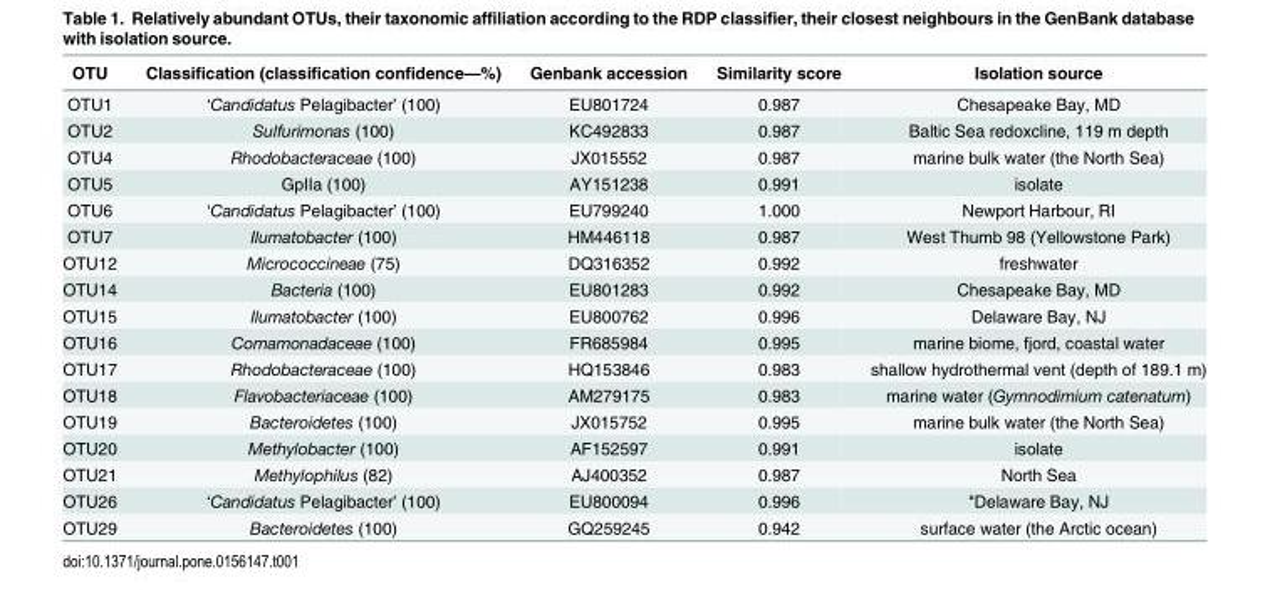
<table><thead><tr><td>OTU</td><td>Classification (classification confidence—%)</td><td>Genbank accession</td><td>Similarity score</td><td>Isolation source</td></tr></thead><tbody><tr><td>OTU1</td><td>‘Candidatus Pelagibacter’ (100)</td><td>EU801724</td><td>0.987</td><td>Chesapeake Bay, MD</td></tr><tr><td>OTU2</td><td>Sulfurimonas (100)</td><td>KC492833</td><td>0.987</td><td>Baltic Sea redoxcline, 119 m depth</td></tr><tr><td>OTU4</td><td>Rhodobacteraceae (100)</td><td>JX015552</td><td>0.987</td><td>marine bulk water (the North Sea)</td></tr><tr><td>OTU5</td><td>GpIIa (100)</td><td>AY151238</td><td>0.991</td><td>isolate</td></tr><tr><td>OTU6</td><td>‘Candidatus Pelagibacter’ (100)</td><td>EU799240</td><td>1.000</td><td>Newport Harbour, RI</td></tr><tr><td>OTU7</td><td>Ilumatobacter (100)</td><td>HM446118</td><td>0.987</td><td>West Thumb 98 (Yellowstone Park)</td></tr><tr><td>OTU12</td><td>Micrococcineae (75)</td><td>DQ316352</td><td>0.992</td><td>freshwater</td></tr><tr><td>OTU14</td><td>Bacteria (100)</td><td>EU801283</td><td>0.992</td><td>Chesapeake Bay, MD</td></tr><tr><td>OTU15</td><td>Ilumatobacter (100)</td><td>EU800762</td><td>0.996</td><td>Delaware Bay, NJ</td></tr><tr><td>OTU16</td><td>Comamonadaceae (100)</td><td>FR685984</td><td>0.995</td><td>marine biome, fjord, coastal water</td></tr><tr><td>OTU17</td><td>Rhodobacteraceae (100)</td><td>HQ153846</td><td>0.983</td><td>shallow hydrothermal vent (depth of 189.1 m)</td></tr><tr><td>OTU18</td><td>Flavobacteriaceae (100)</td><td>AM279175</td><td>0.983</td><td>marine water (Gymnodimium catenatum)</td></tr><tr><td>OTU19</td><td>Bacteroidetes (100)</td><td>JX015752</td><td>0.995</td><td>marine bulk water (the North Sea)</td></tr><tr><td>OTU20</td><td>Methylobacter (100)</td><td>AF152597</td><td>0.991</td><td>isolate</td></tr><tr><td>OTU21</td><td>Methylophilus (82)</td><td>AJ400352</td><td>0.987</td><td>North Sea</td></tr><tr><td>OTU26</td><td>‘Candidatus Pelagibacter’ (100)</td><td>EU800094</td><td>0.996</td><td>&quot;Delaware Bay, NJ</td></tr><tr><td>OTU29</td><td>Bacteroidetes (100)</td><td>GQ259245</td><td>0.942</td><td>surface water (the Arctic ocean)</td></tr></tbody></table>